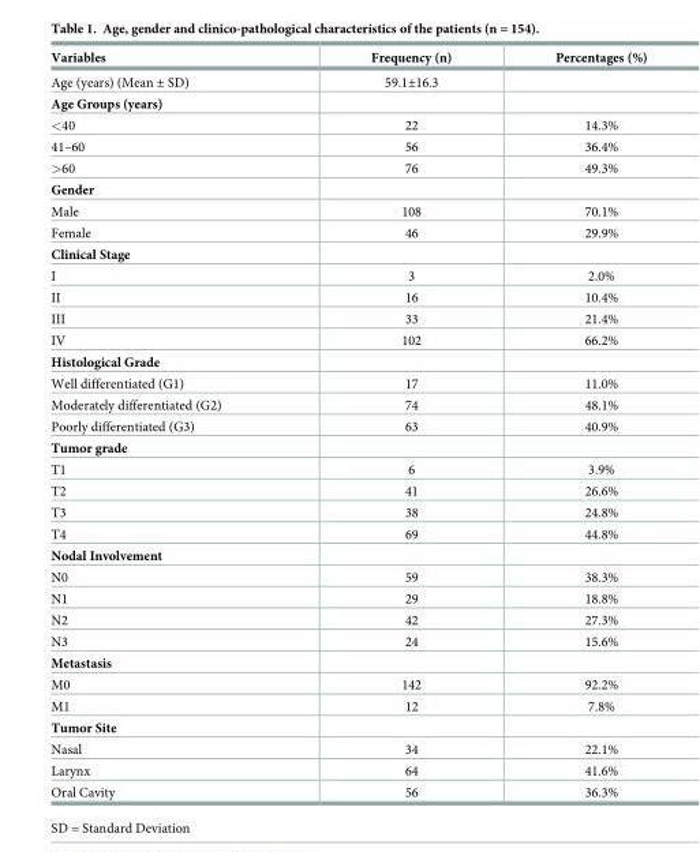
<table><thead><tr><td>Variables</td><td>Frequency (n)</td><td>Percentages (%)</td></tr></thead><tbody><tr><td>Age (years) (Mean ± SD)</td><td>59.1±16.3</td><td></td></tr><tr><td colspan="3">Age Groups (years)</td></tr><tr><td>&lt;40</td><td>22</td><td>14.3%</td></tr><tr><td>41–60</td><td>56</td><td>36.4%</td></tr><tr><td>&gt;60</td><td>76</td><td>49.3%</td></tr><tr><td colspan="3">Gender</td></tr><tr><td>Male</td><td>108</td><td>70.1%</td></tr><tr><td>Female</td><td>46</td><td>29.9%</td></tr><tr><td colspan="3">Clinical Stage</td></tr><tr><td>I</td><td>3</td><td>2.0%</td></tr><tr><td>II</td><td>16</td><td>10.4%</td></tr><tr><td>III</td><td>33</td><td>21.4%</td></tr><tr><td>IV</td><td>102</td><td>66.2%</td></tr><tr><td colspan="3">Histological Grade</td></tr><tr><td>Well differentiated (G1)</td><td>17</td><td>11.0%</td></tr><tr><td>Moderately differentiated (G2)</td><td>74</td><td>48.1%</td></tr><tr><td>Poorly differentiated (G3)</td><td>63</td><td>40.9%</td></tr><tr><td colspan="3">Tumor grade</td></tr><tr><td>T1</td><td>6</td><td>3.9%</td></tr><tr><td>T2</td><td>41</td><td>26.6%</td></tr><tr><td>T3</td><td>38</td><td>24.8%</td></tr><tr><td>T4</td><td>69</td><td>44.8%</td></tr><tr><td colspan="3">Nodal Involvement</td></tr><tr><td>N0</td><td>59</td><td>38.3%</td></tr><tr><td>N1</td><td>29</td><td>18.8%</td></tr><tr><td>N2</td><td>42</td><td>27.3%</td></tr><tr><td>N3</td><td>24</td><td>15.6%</td></tr><tr><td colspan="3">Metastasis</td></tr><tr><td>M0</td><td>142</td><td>92.2%</td></tr><tr><td>M1</td><td>12</td><td>7.8%</td></tr><tr><td colspan="3">Tumor Site</td></tr><tr><td>Nasal</td><td>34</td><td>22.1%</td></tr><tr><td>Larynx</td><td>64</td><td>41.6%</td></tr><tr><td>Oral Cavity</td><td>56</td><td>36.3%</td></tr></tbody></table>